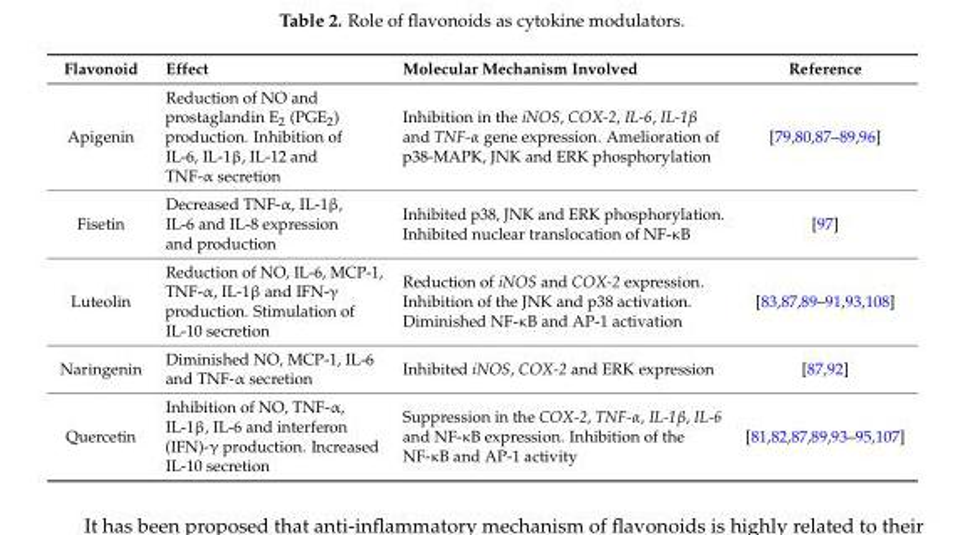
<table><thead><tr><td>Flavonoid</td><td>Effect</td><td>Molecular Mechanism Involved</td><td>Reference</td></tr></thead><tbody><tr><td>Apigenin</td><td>Reduction of NO and prostaglandin E<sub>2</sub> (PGE<sub>2</sub>) production. Inhibition of IL-6, IL-1β, IL-12 and TNF-α secretion</td><td>Inhibition in the iNOS, COX-2, IL-6, IL-1β and TNF-α gene expression. Amelioration of p38-MAPK, JNK and ERK phosphorylation</td><td>[79,80,87–89,96]</td></tr><tr><td>Fisetin</td><td>Decreased TNF-α, IL-1β, IL-6 and IL-8 expression and production</td><td>Inhibited p38, JNK and ERK phosphorylation. Inhibited nuclear translocation of NF-κB</td><td>[97]</td></tr><tr><td>Luteolin</td><td>Reduction of NO, IL-6, MCP-1, TNF-α, IL-1β and IFN-γ production. Stimulation of IL-10 secretion</td><td>Reduction of iNOS and COX-2 expression. Inhibition of the JNK and p38 activation. Diminished NF-κB and AP-1 activation</td><td>[83,87,89–91,93,108]</td></tr><tr><td>Naringenin</td><td>Diminished NO, MCP-1, IL-6 and TNF-α secretion</td><td>Inhibited iNOS, COX-2 and ERK expression</td><td>[87,92]</td></tr><tr><td>Quercetin</td><td>Inhibition of NO, TNF-α, IL-1β, IL-6 and interferon (IFN)-γ production. Increased IL-10 secretion</td><td>Suppression in the COX-2, TNF-α, IL-1β, IL-6 and NF-κB expression. Inhibition of the NF-κB and AP-1 activity</td><td>[81,82,87,89,93–95,107]</td></tr></tbody></table>